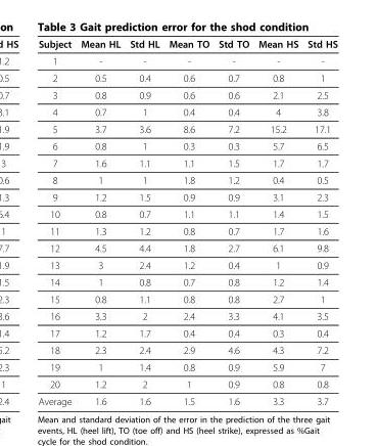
<table><thead><tr><td>Subject</td><td>Mean HL</td><td>Std HL</td><td>Mean TO</td><td>Std TO</td><td>Mean HS</td><td>Std HS</td></tr></thead><tbody><tr><td>1</td><td>-</td><td>-</td><td>-</td><td>-</td><td>-</td><td>-</td></tr><tr><td>2</td><td>0.5</td><td>0.4</td><td>0.6</td><td>0.7</td><td>0.8</td><td>1</td></tr><tr><td>3</td><td>0.8</td><td>0.9</td><td>0.6</td><td>0.6</td><td>2.1</td><td>2.5</td></tr><tr><td>4</td><td>0.7</td><td>1</td><td>0.4</td><td>0.4</td><td>4</td><td>3.8</td></tr><tr><td>5</td><td>3.7</td><td>3.6</td><td>8.6</td><td>7.2</td><td>15.2</td><td>17.1</td></tr><tr><td>6</td><td>0.8</td><td>1</td><td>0.3</td><td>0.3</td><td>5.7</td><td>6.5</td></tr><tr><td>7</td><td>1.6</td><td>1.1</td><td>1.1</td><td>1.5</td><td>1.7</td><td>1.7</td></tr><tr><td>8</td><td>1</td><td>1</td><td>1.8</td><td>1.2</td><td>0.4</td><td>0.5</td></tr><tr><td>9</td><td>1.2</td><td>1.5</td><td>0.9</td><td>0.9</td><td>3.1</td><td>2.3</td></tr><tr><td>10</td><td>0.8</td><td>0.7</td><td>1.1</td><td>1.1</td><td>1.4</td><td>1.5</td></tr><tr><td>11</td><td>1.3</td><td>1.2</td><td>0.8</td><td>0.7</td><td>1.7</td><td>1.6</td></tr><tr><td>12</td><td>4.5</td><td>4.4</td><td>1.8</td><td>2.7</td><td>6.1</td><td>9.8</td></tr><tr><td>13</td><td>3</td><td>2.4</td><td>1.2</td><td>0.4</td><td>1</td><td>0.9</td></tr><tr><td>14</td><td>1</td><td>0.8</td><td>0.7</td><td>0.8</td><td>1.2</td><td>1.4</td></tr><tr><td>15</td><td>0.8</td><td>1.1</td><td>0.8</td><td>0.8</td><td>2.7</td><td>1</td></tr><tr><td>16</td><td>3.3</td><td>2</td><td>2.4</td><td>3.3</td><td>4.1</td><td>3.5</td></tr><tr><td>17</td><td>1.2</td><td>1.7</td><td>0.4</td><td>0.4</td><td>0.3</td><td>0.4</td></tr><tr><td>18</td><td>2.3</td><td>2.4</td><td>2.9</td><td>4.6</td><td>4.3</td><td>7.2</td></tr><tr><td>19</td><td>1</td><td>1.4</td><td>0.8</td><td>0.9</td><td>5.9</td><td>7</td></tr><tr><td>20</td><td>1.2</td><td>2</td><td>1</td><td>0.9</td><td>0.8</td><td>0.8</td></tr><tr><td>Average</td><td>1.6</td><td>1.6</td><td>1.5</td><td>1.6</td><td>3.3</td><td>3.7</td></tr></tbody></table>